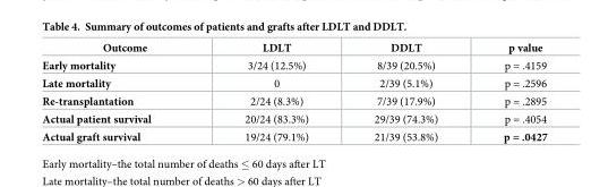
<table><thead><tr><td>Outcome</td><td>LDLT</td><td>DDLT</td><td>p value</td></tr></thead><tbody><tr><td>Early mortality</td><td>3/24 (12.5%)</td><td>8/39 (20.5%)</td><td>p = .4159</td></tr><tr><td>Late mortality</td><td>0</td><td>2/39 (5.1%)</td><td>p = .2596</td></tr><tr><td>Re-transplantation</td><td>2/24 (8.3%)</td><td>7/39 (17.9%)</td><td>p = .2895</td></tr><tr><td>Actual patient survival</td><td>20/24 (83.3%)</td><td>29/39 (74.3%)</td><td>p = .4054</td></tr><tr><td>Actual graft survival</td><td>19/24 (79.1%)</td><td>21/39 (53.8%)</td><td>p = .0427</td></tr></tbody></table>